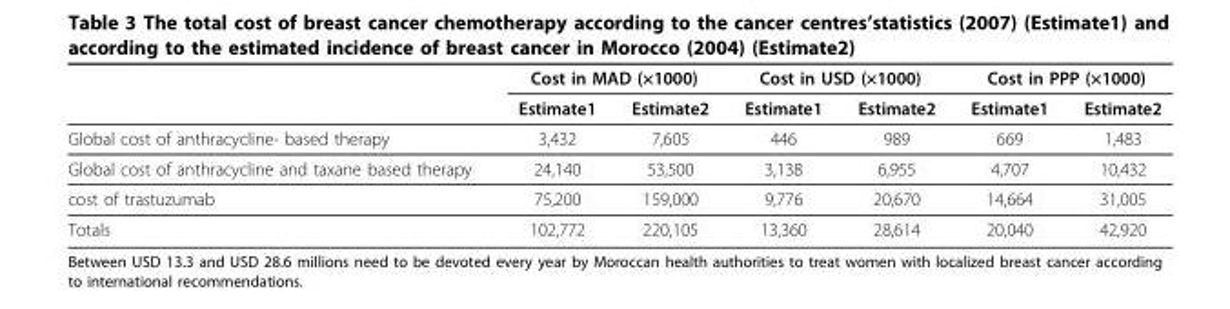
<table><thead><tr><td rowspan="2"></td><td colspan="2">Cost in MAD (×1000)</td><td colspan="2">Cost in USD (×1000)</td><td colspan="2">Cost in PPP (×1000)</td></tr><tr><td>Estimate1</td><td>Estimate2</td><td>Estimate1</td><td>Estimate2</td><td>Estimate1</td><td>Estimate2</td></tr></thead><tbody><tr><td>Global cost of anthracycline- based therapy</td><td>3,432</td><td>7,605</td><td>446</td><td>989</td><td>669</td><td>1,483</td></tr><tr><td>Global cost of anthracycline and taxane based therapy</td><td>24,140</td><td>53,500</td><td>3,138</td><td>6,955</td><td>4,707</td><td>10,432</td></tr><tr><td>cost of trastuzumab</td><td>75,200</td><td>159,000</td><td>9,776</td><td>20,670</td><td>14,664</td><td>31,005</td></tr><tr><td>Totals</td><td>102,772</td><td>220,105</td><td>13,360</td><td>28,614</td><td>20,040</td><td>42,920</td></tr></tbody></table>